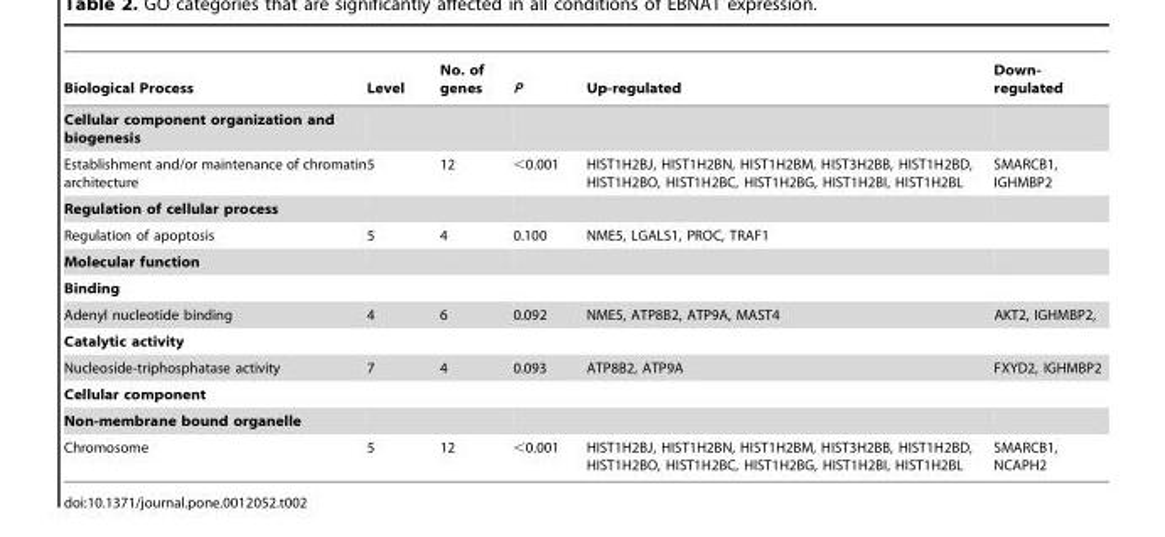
<table><thead><tr><td>Biological Process</td><td>Level</td><td>No. of genes</td><td>P</td><td>Up-regulated</td><td>Down- regulated</td></tr></thead><tbody><tr><td colspan="6">Cellular component organization and biogenesis</td></tr><tr><td>Establishment and/or maintenance of chromatin architecture</td><td>5</td><td>12</td><td>&lt;0.001</td><td>HIST1H2BJ, HIST1H2BN, HIST1H2BM, HIST3H2BB, HIST1H2BD, HIST1H2BO, HIST1H2BC, HIST1H2BG, HIST1H2BI, HIST1H2BL</td><td>SMARCB1, IGHMBP2</td></tr><tr><td colspan="6">Regulation of cellular process</td></tr><tr><td>Regulation of apoptosis</td><td>5</td><td>4</td><td>0.100</td><td>NME5, LGALS1, PROC, TRAF1</td><td></td></tr><tr><td colspan="6">Molecular function</td></tr><tr><td colspan="6">Binding</td></tr><tr><td>Adenyl nucleotide binding</td><td>4</td><td>6</td><td>0.092</td><td>NME5, ATP8B2, ATP9A, MAST4</td><td>AKT2, IGHMBP2,</td></tr><tr><td colspan="6">Catalytic activity</td></tr><tr><td>Nucleoside-triphosphatase activity</td><td>7</td><td>4</td><td>0.093</td><td>ATP8B2, ATP9A</td><td>FXYD2, IGHMBP2</td></tr><tr><td colspan="6">Cellular component</td></tr><tr><td colspan="6">Non-membrane bound organelle</td></tr><tr><td>Chromosome</td><td>5</td><td>12</td><td>&lt;0.001</td><td>HIST1H2BJ, HIST1H2BN, HIST1H2BM, HIST3H2BB, HIST1H2BD, HIST1H2BO, HIST1H2BC, HIST1H2BG, HIST1H2BI, HIST1H2BL</td><td>SMARCB1, NCAPH2</td></tr></tbody></table>